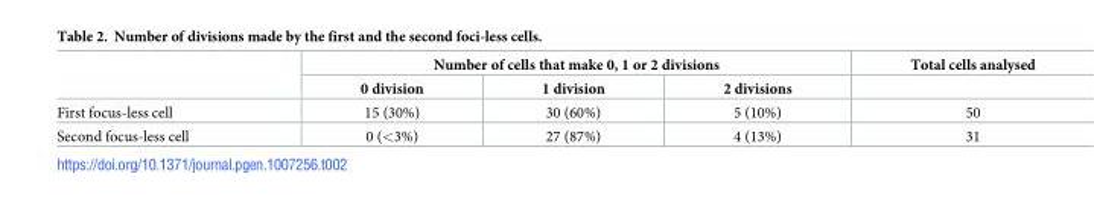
<table><thead><tr><td rowspan="2"></td><td colspan="3">Number of cells that make 0, 1 or 2 divisions</td><td rowspan="2">Total cells analysed</td></tr><tr><td>0 division</td><td>1 division</td><td>2 divisions</td></tr></thead><tbody><tr><td>First focus-less cell</td><td>15 (30%)</td><td>30 (60%)</td><td>5 (10%)</td><td>50</td></tr><tr><td>Second focus-less cell</td><td>0 (&lt;3%)</td><td>27 (87%)</td><td>4 (13%)</td><td>31</td></tr></tbody></table>